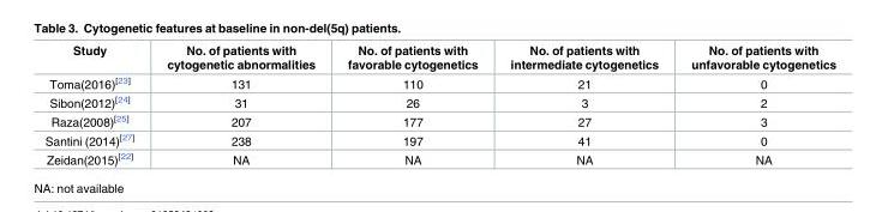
<table><thead><tr><td>Study</td><td>No. of patients with cytogenetic abnormalities</td><td>No. of patients with favorable cytogenetics</td><td>No. of patients with intermediate cytogenetics</td><td>No. of patients with unfavorable cytogenetics</td></tr></thead><tbody><tr><td>Toma(2016)<sup>[23]</sup></td><td>131</td><td>110</td><td>21</td><td>0</td></tr><tr><td>Sibon(2012)<sup>[24]</sup></td><td>31</td><td>26</td><td>3</td><td>2</td></tr><tr><td>Raza(2008)<sup>[25]</sup></td><td>207</td><td>177</td><td>27</td><td>3</td></tr><tr><td>Santini (2014)<sup>[27]</sup></td><td>238</td><td>197</td><td>41</td><td>0</td></tr><tr><td>Zeidan(2015)<sup>[22]</sup></td><td>NA</td><td>NA</td><td>NA</td><td>NA</td></tr></tbody></table>